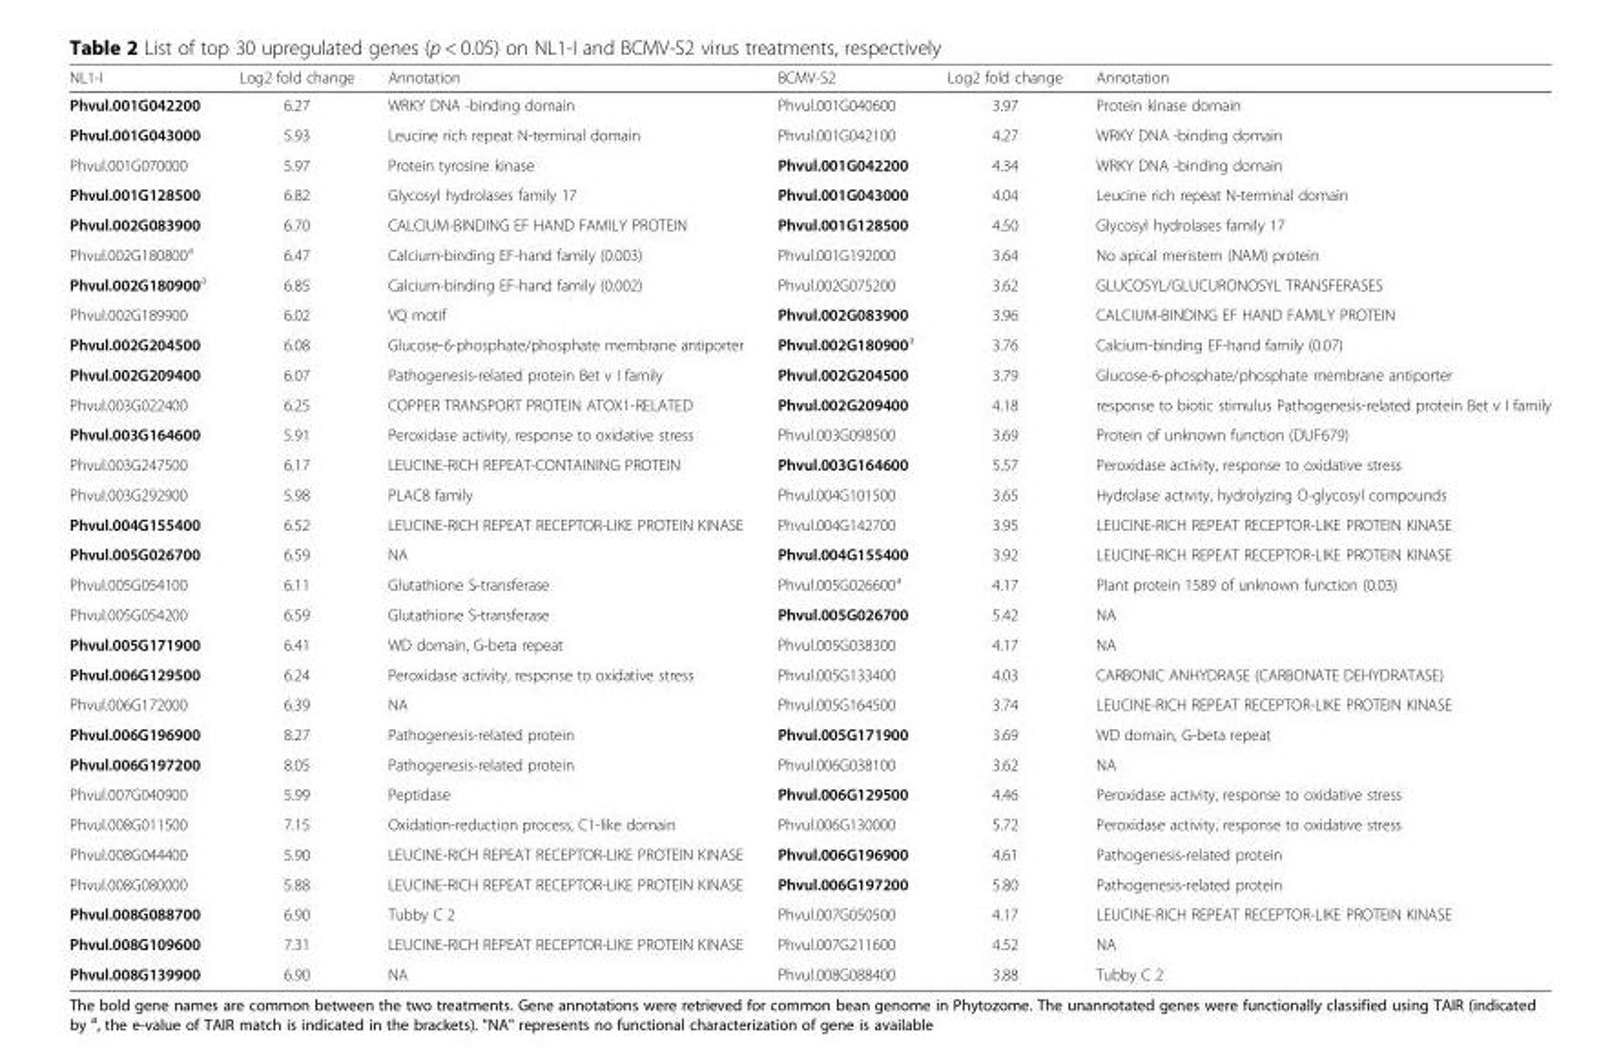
<table><thead><tr><td>NL1-I</td><td>Log2 fold change</td><td>Annotation</td><td>BCMV-S2</td><td>Log2 fold change</td><td>Annotation</td></tr></thead><tbody><tr><td>Phvul.001G042200</td><td>6.27</td><td>WRKY DNA -binding domain</td><td>Phvul.001G040600</td><td>3.97</td><td>Protein kinase domain</td></tr><tr><td>Phvul.001G043000</td><td>5.93</td><td>Leucine rich repeat N-terminal domain</td><td>Phvul.001G042100</td><td>4.27</td><td>WRKY DNA -binding domain</td></tr><tr><td>Phvul.001G070000</td><td>5.97</td><td>Protein tyrosine kinase</td><td>Phvul.001G042200</td><td>4.34</td><td>WRKY DNA -binding domain</td></tr><tr><td>Phvul.001G128500</td><td>6.82</td><td>Glycosyl hydrolases family 17</td><td>Phvul.001G043000</td><td>4.04</td><td>Leucine rich repeat N-terminal domain</td></tr><tr><td>Phvul.002G083900</td><td>6.70</td><td>CALCIUM-BINDING EF HAND FAMILY PROTEIN</td><td>Phvul.001G128500</td><td>4.50</td><td>Glycosyl hydrolases family 17</td></tr><tr><td>Phvul.002G180800<sup>a</sup></td><td>6.47</td><td>Calcium-binding EF-hand family (0.003)</td><td>Phvul.001G192000</td><td>3.64</td><td>No apical meristem (NAM) protein</td></tr><tr><td>Phvul.002G180900<sup>a</sup></td><td>6.85</td><td>Calcium-binding EF-hand family (0.002)</td><td>Phvul.002G075200</td><td>3.62</td><td>GLUCOSYL/GLUCURONOSYL TRANSFERASES</td></tr><tr><td>Phvul.002G189900</td><td>6.02</td><td>VQ motif</td><td>Phvul.002G083900</td><td>3.96</td><td>CALCIUM-BINDING EF HAND FAMILY PROTEIN</td></tr><tr><td>Phvul.002G204500</td><td>6.08</td><td>Glucose-6-phosphate/phosphate membrane antiporter</td><td>Phvul.002G180900<sup>a</sup></td><td>3.76</td><td>Calcium-binding EF-hand family (0.07)</td></tr><tr><td>Phvul.002G209400</td><td>6.07</td><td>Pathogenesis-related protein Bet v I family</td><td>Phvul.002G204500</td><td>3.79</td><td>Glucose-6-phosphate/phosphate membrane antiporter</td></tr><tr><td>Phvul.003G022400</td><td>6.25</td><td>COPPER TRANSPORT PROTEIN ATOX1-RELATED</td><td>Phvul.002G209400</td><td>4.18</td><td>response to biotic stimulus Pathogenesis-related protein Bet v I family</td></tr><tr><td>Phvul.003G164600</td><td>5.91</td><td>Peroxidase activity, response to oxidative stress</td><td>Phvul.003G098500</td><td>3.69</td><td>Protein of unknown function (DUF679)</td></tr><tr><td>Phvul.003G247500</td><td>6.17</td><td>LEUCINE-RICH REPEAT-CONTAINING PROTEIN</td><td>Phvul.003G164600</td><td>5.57</td><td>Peroxidase activity, response to oxidative stress</td></tr><tr><td>Phvul.003G292900</td><td>5.98</td><td>PLAC8 family</td><td>Phvul.004G101500</td><td>3.65</td><td>Hydrolase activity, hydrolyzing O-glycosyl compounds</td></tr><tr><td>Phvul.004G155400</td><td>6.52</td><td>LEUCINE-RICH REPEAT RECEPTOR-LIKE PROTEIN KINASE</td><td>Phvul.004G142700</td><td>3.95</td><td>LEUCINE-RICH REPEAT RECEPTOR-LIKE PROTEIN KINASE</td></tr><tr><td>Phvul.005G026700</td><td>6.59</td><td>NA</td><td>Phvul.004G155400</td><td>3.92</td><td>LEUCINE-RICH REPEAT RECEPTOR-LIKE PROTEIN KINASE</td></tr><tr><td>Phvul.005G054100</td><td>6.11</td><td>Glutathione S-transferase</td><td>Phvul.005G026600<sup>a</sup></td><td>4.17</td><td>Plant protein 1589 of unknown function (0.03)</td></tr><tr><td>Phvul.005G054200</td><td>6.59</td><td>Glutathione S-transferase</td><td>Phvul.005G026700</td><td>5.42</td><td>NA</td></tr><tr><td>Phvul.005G171900</td><td>6.41</td><td>WD domain, G-beta repeat</td><td>Phvul.005G038300</td><td>4.17</td><td>NA</td></tr><tr><td>Phvul.006G129500</td><td>6.24</td><td>Peroxidase activity, response to oxidative stress</td><td>Phvul.005G133400</td><td>4.03</td><td>CARBONIC ANHYDRASE (CARBONATE DEHYDRATASE)</td></tr><tr><td>Phvul.006G172000</td><td>6.39</td><td>NA</td><td>Phvul.005G164500</td><td>3.74</td><td>LEUCINE-RICH REPEAT RECEPTOR-LIKE PROTEIN KINASE</td></tr><tr><td>Phvul.006G196900</td><td>8.27</td><td>Pathogenesis-related protein</td><td>Phvul.005G171900</td><td>3.69</td><td>WD domain, G-beta repeat</td></tr><tr><td>Phvul.006G197200</td><td>8.05</td><td>Pathogenesis-related protein</td><td>Phvul.006G038100</td><td>3.62</td><td>NA</td></tr><tr><td>Phvul.007G040900</td><td>5.99</td><td>Peptidase</td><td>Phvul.006G129500</td><td>4.46</td><td>Peroxidase activity, response to oxidative stress</td></tr><tr><td>Phvul.008G011500</td><td>7.15</td><td>Oxidation-reduction process, C1-like domain</td><td>Phvul.006G130000</td><td>5.72</td><td>Peroxidase activity, response to oxidative stress</td></tr><tr><td>Phvul.008G044400</td><td>5.90</td><td>LEUCINE-RICH REPEAT RECEPTOR-LIKE PROTEIN KINASE</td><td>Phvul.006G196900</td><td>4.61</td><td>Pathogenesis-related protein</td></tr><tr><td>Phvul.008G080000</td><td>5.88</td><td>LEUCINE-RICH REPEAT RECEPTOR-LIKE PROTEIN KINASE</td><td>Phvul.006G197200</td><td>5.80</td><td>Pathogenesis-related protein</td></tr><tr><td>Phvul.008G088700</td><td>6.90</td><td>Tubby C 2</td><td>Phvul.007G050500</td><td>4.17</td><td>LEUCINE-RICH REPEAT RECEPTOR-LIKE PROTEIN KINASE</td></tr><tr><td>Phvul.008G109600</td><td>7.31</td><td>LEUCINE-RICH REPEAT RECEPTOR-LIKE PROTEIN KINASE</td><td>Phvul.007G211600</td><td>4.52</td><td>NA</td></tr><tr><td>Phvul.008G139900</td><td>6.90</td><td>NA</td><td>Phvul.008G088400</td><td>3.88</td><td>Tubby C 2</td></tr></tbody></table>